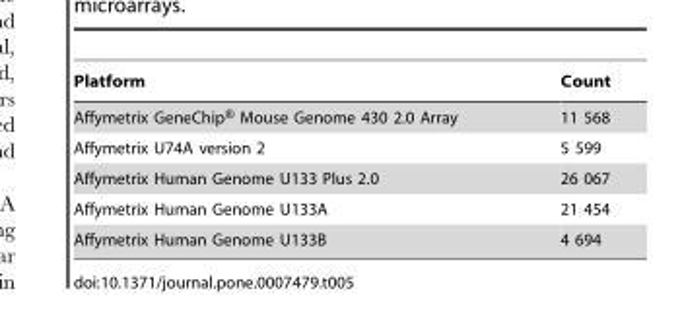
<table><thead><tr><td>Platform</td><td>Count</td></tr></thead><tbody><tr><td>Affymetrix GeneChip® Mouse Genome 430 2.0 Array</td><td>11 568</td></tr><tr><td>Affymetrix U74A version 2</td><td>5 599</td></tr><tr><td>Affymetrix Human Genome U133 Plus 2.0</td><td>26 067</td></tr><tr><td>Affymetrix Human Genome U133A</td><td>21 454</td></tr><tr><td>Affymetrix Human Genome U133B</td><td>4 694</td></tr></tbody></table>